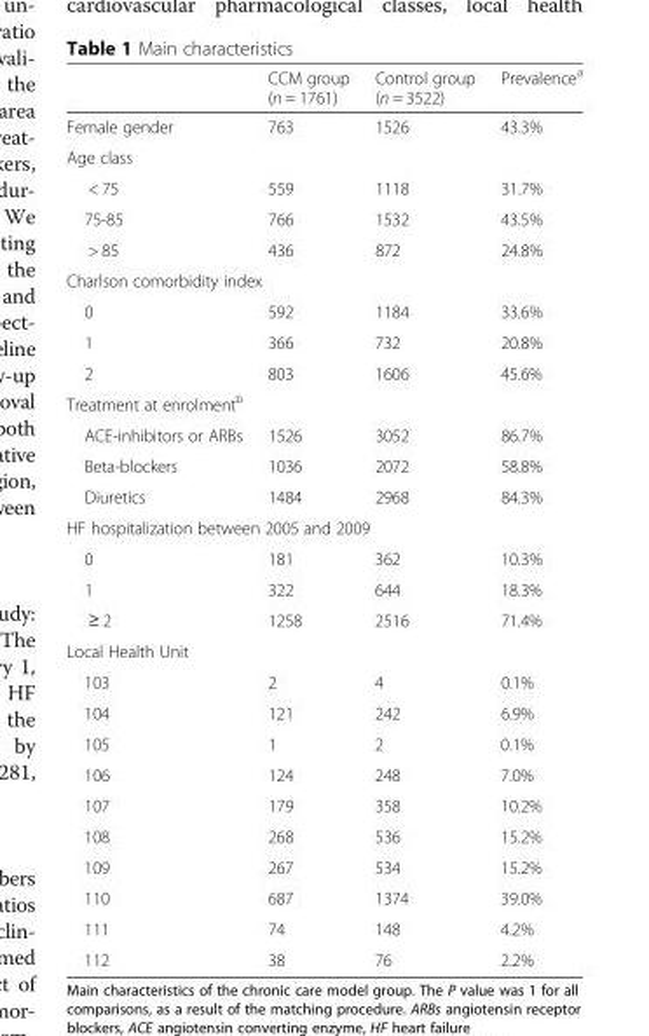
<table><thead><tr><td></td><td>CCM group (n = 1761)</td><td>Control group (n = 3522)</td><td>Prevalence<sup>a</sup></td></tr></thead><tbody><tr><td>Female gender</td><td>763</td><td>1526</td><td>43.3%</td></tr><tr><td colspan="4">Age class</td></tr><tr><td>&lt; 75</td><td>559</td><td>1118</td><td>31.7%</td></tr><tr><td>75-85</td><td>766</td><td>1532</td><td>43.5%</td></tr><tr><td>&gt; 85</td><td>436</td><td>872</td><td>24.8%</td></tr><tr><td colspan="4">Charlson comorbidity index</td></tr><tr><td>0</td><td>592</td><td>1184</td><td>33.6%</td></tr><tr><td>1</td><td>366</td><td>732</td><td>20.8%</td></tr><tr><td>2</td><td>803</td><td>1606</td><td>45.6%</td></tr><tr><td colspan="4">Treatment at enrolment<sup>b</sup></td></tr><tr><td>ACE-inhibitors or ARBs</td><td>1526</td><td>3052</td><td>86.7%</td></tr><tr><td>Beta-blockers</td><td>1036</td><td>2072</td><td>58.8%</td></tr><tr><td>Diuretics</td><td>1484</td><td>2968</td><td>84.3%</td></tr><tr><td colspan="4">HF hospitalization between 2005 and 2009</td></tr><tr><td>0</td><td>181</td><td>362</td><td>10.3%</td></tr><tr><td>1</td><td>322</td><td>644</td><td>18.3%</td></tr><tr><td>≥ 2</td><td>1258</td><td>2516</td><td>71.4%</td></tr><tr><td colspan="4">Local Health Unit</td></tr><tr><td>103</td><td>2</td><td>4</td><td>0.1%</td></tr><tr><td>104</td><td>121</td><td>242</td><td>6.9%</td></tr><tr><td>105</td><td>1</td><td>2</td><td>0.1%</td></tr><tr><td>106</td><td>124</td><td>248</td><td>7.0%</td></tr><tr><td>107</td><td>179</td><td>358</td><td>10.2%</td></tr><tr><td>108</td><td>268</td><td>536</td><td>15.2%</td></tr><tr><td>109</td><td>267</td><td>534</td><td>15.2%</td></tr><tr><td>110</td><td>687</td><td>1374</td><td>39.0%</td></tr><tr><td>111</td><td>74</td><td>148</td><td>4.2%</td></tr><tr><td>112</td><td>38</td><td>76</td><td>2.2%</td></tr></tbody></table>